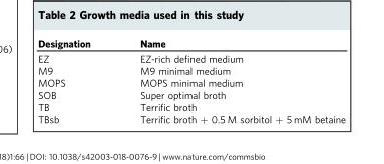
<table><thead><tr><td>Designation</td><td>Name</td></tr></thead><tbody><tr><td>EZ</td><td>EZ-rich defined medium</td></tr><tr><td>M9</td><td>M9 minimal medium</td></tr><tr><td>MOPS</td><td>MOPS minimal medium</td></tr><tr><td>SOB</td><td>Super optimal broth</td></tr><tr><td>TB</td><td>Terrific broth</td></tr><tr><td>TBsb</td><td>Terrific broth + 0.5 M sorbitol + 5 mM betaine</td></tr></tbody></table>